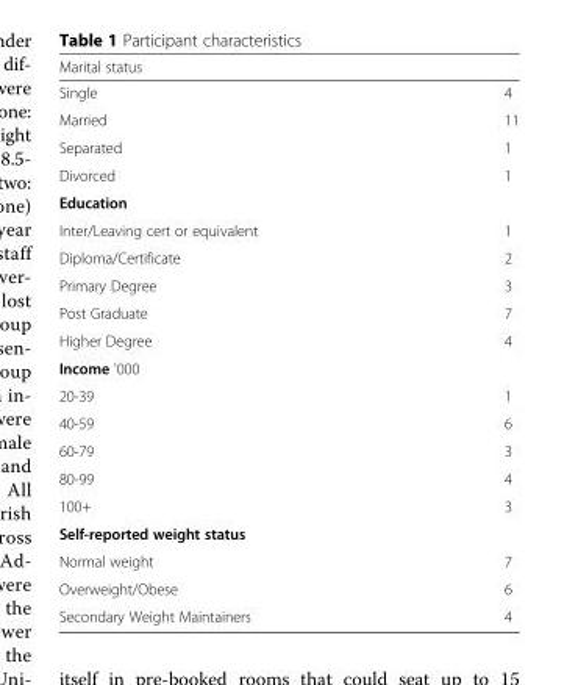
<table><thead><tr><td>Marital status</td><td></td></tr></thead><tbody><tr><td>Single</td><td>4</td></tr><tr><td>Married</td><td>11</td></tr><tr><td>Separated</td><td>1</td></tr><tr><td>Divorced</td><td>1</td></tr><tr><td colspan="2">Education</td></tr><tr><td>Inter/Leaving cert or equivalent</td><td>1</td></tr><tr><td>Diploma/Certificate</td><td>2</td></tr><tr><td>Primary Degree</td><td>3</td></tr><tr><td>Post Graduate</td><td>7</td></tr><tr><td>Higher Degree</td><td>4</td></tr><tr><td colspan="2">Income &#x27;000</td></tr><tr><td>20-39</td><td>1</td></tr><tr><td>40-59</td><td>6</td></tr><tr><td>60-79</td><td>3</td></tr><tr><td>80-99</td><td>4</td></tr><tr><td>100+</td><td>3</td></tr><tr><td colspan="2">Self-reported weight status</td></tr><tr><td>Normal weight</td><td>7</td></tr><tr><td>Overweight/Obese</td><td>6</td></tr><tr><td>Secondary Weight Maintainers</td><td>4</td></tr></tbody></table>